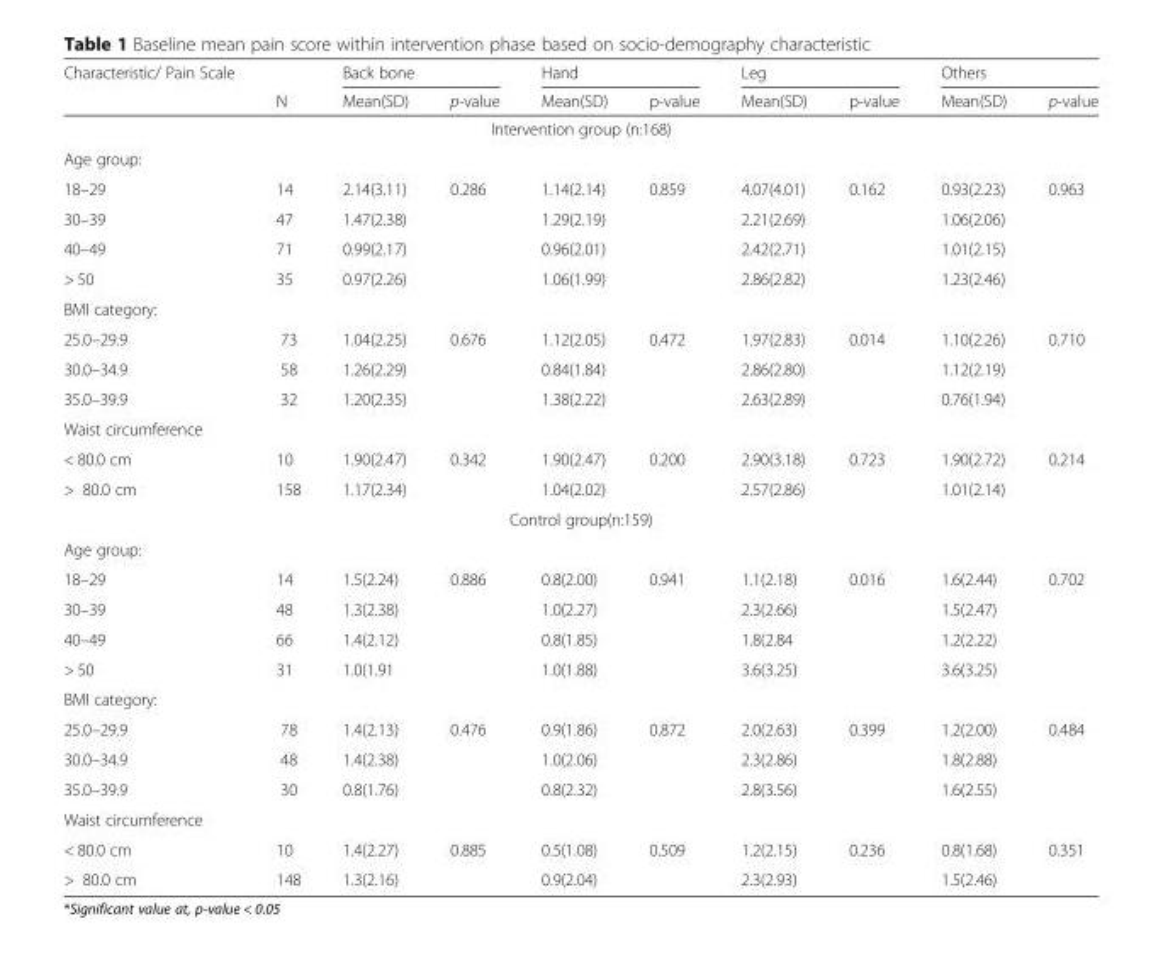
<table><thead><tr><td rowspan="2">Characteristic/ Pain Scale</td><td rowspan="2">N</td><td colspan="2">Back bone</td><td colspan="2">Hand</td><td colspan="2">Leg</td><td colspan="2">Others</td></tr><tr><td>Mean(SD)</td><td>p-value</td><td>Mean(SD)</td><td>p-value</td><td>Mean(SD)</td><td>p-value</td><td>Mean(SD)</td><td>p-value</td></tr></thead><tbody><tr><td colspan="10">Intervention group (n:168)</td></tr><tr><td colspan="10">Age group:</td></tr><tr><td>18–29</td><td>14</td><td>2.14(3.11)</td><td rowspan="4">0.286</td><td>1.14(2.14)</td><td rowspan="4">0.859</td><td>4.07(4.01)</td><td rowspan="4">0.162</td><td>0.93(2.23)</td><td rowspan="4">0.963</td></tr><tr><td>30–39</td><td>47</td><td>1.47(2.38)</td><td>1.29(2.19)</td><td>2.21(2.69)</td><td>1.06(2.06)</td></tr><tr><td>40–49</td><td>71</td><td>0.99(2.17)</td><td>0.96(2.01)</td><td>2.42(2.71)</td><td>1.01(2.15)</td></tr><tr><td>&gt; 50</td><td>35</td><td>0.97(2.26)</td><td>1.06(1.99)</td><td>2.86(2.82)</td><td>1.23(2.46)</td></tr><tr><td colspan="10">BMI category:</td></tr><tr><td>25.0–29.9</td><td>73</td><td>1.04(2.25)</td><td rowspan="3">0.676</td><td>1.12(2.05)</td><td rowspan="3">0.472</td><td>1.97(2.83)</td><td rowspan="3">0.014</td><td>1.10(2.26)</td><td rowspan="3">0.710</td></tr><tr><td>30.0–34.9</td><td>58</td><td>1.26(2.29)</td><td>0.84(1.84)</td><td>2.86(2.80)</td><td>1.12(2.19)</td></tr><tr><td>35.0–39.9</td><td>32</td><td>1.20(2.35)</td><td>1.38(2.22)</td><td>2.63(2.89)</td><td>0.76(1.94)</td></tr><tr><td colspan="10">Waist circumference</td></tr><tr><td>&lt; 80.0 cm</td><td>10</td><td>1.90(2.47)</td><td rowspan="2">0.342</td><td>1.90(2.47)</td><td rowspan="2">0.200</td><td>2.90(3.18)</td><td rowspan="2">0.723</td><td>1.90(2.72)</td><td rowspan="2">0.214</td></tr><tr><td>&gt; 80.0 cm</td><td>158</td><td>1.17(2.34)</td><td>1.04(2.02)</td><td>2.57(2.86)</td><td>1.01(2.14)</td></tr><tr><td colspan="10">Control group(n:159)</td></tr><tr><td colspan="10">Age group:</td></tr><tr><td>18–29</td><td>14</td><td>1.5(2.24)</td><td rowspan="4">0.886</td><td>0.8(2.00)</td><td rowspan="4">0.941</td><td>1.1(2.18)</td><td rowspan="4">0.016</td><td>1.6(2.44)</td><td rowspan="4">0.702</td></tr><tr><td>30–39</td><td>48</td><td>1.3(2.38)</td><td>1.0(2.27)</td><td>2.3(2.66)</td><td>1.5(2.47)</td></tr><tr><td>40–49</td><td>66</td><td>1.4(2.12)</td><td>0.8(1.85)</td><td>1.8(2.84</td><td>1.2(2.22)</td></tr><tr><td>&gt; 50</td><td>31</td><td>1.0(1.91</td><td>1.0(1.88)</td><td>3.6(3.25)</td><td>3.6(3.25)</td></tr><tr><td colspan="10">BMI category:</td></tr><tr><td>25.0–29.9</td><td>78</td><td>1.4(2.13)</td><td rowspan="3">0.476</td><td>0.9(1.86)</td><td rowspan="3">0.872</td><td>2.0(2.63)</td><td rowspan="3">0.399</td><td>1.2(2.00)</td><td rowspan="3">0.484</td></tr><tr><td>30.0–34.9</td><td>48</td><td>1.4(2.38)</td><td>1.0(2.06)</td><td>2.3(2.86)</td><td>1.8(2.88)</td></tr><tr><td>35.0–39.9</td><td>30</td><td>0.8(1.76)</td><td>0.8(2.32)</td><td>2.8(3.56)</td><td>1.6(2.55)</td></tr><tr><td colspan="10">Waist circumference</td></tr><tr><td>&lt; 80.0 cm</td><td>10</td><td>1.4(2.27)</td><td rowspan="2">0.885</td><td>0.5(1.08)</td><td rowspan="2">0.509</td><td>1.2(2.15)</td><td rowspan="2">0.236</td><td>0.8(1.68)</td><td rowspan="2">0.351</td></tr><tr><td>&gt; 80.0 cm</td><td>148</td><td>1.3(2.16)</td><td>0.9(2.04)</td><td>2.3(2.93)</td><td>1.5(2.46)</td></tr></tbody></table>